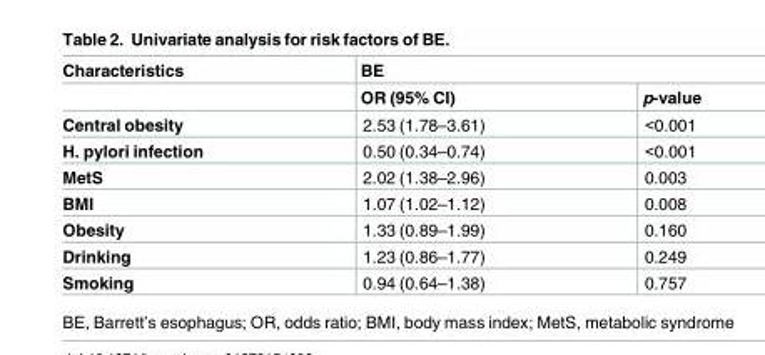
<table><thead><tr><td rowspan="2">Characteristics</td><td colspan="2">BE</td></tr><tr><td>OR (95% CI)</td><td>p-value</td></tr></thead><tbody><tr><td>Central obesity</td><td>2.53 (1.78–3.61)</td><td>&lt;0.001</td></tr><tr><td>H. pylori infection</td><td>0.50 (0.34–0.74)</td><td>&lt;0.001</td></tr><tr><td>MetS</td><td>2.02 (1.38–2.96)</td><td>0.003</td></tr><tr><td>BMI</td><td>1.07 (1.02–1.12)</td><td>0.008</td></tr><tr><td>Obesity</td><td>1.33 (0.89–1.99)</td><td>0.160</td></tr><tr><td>Drinking</td><td>1.23 (0.86–1.77)</td><td>0.249</td></tr><tr><td>Smoking</td><td>0.94 (0.64–1.38)</td><td>0.757</td></tr></tbody></table>